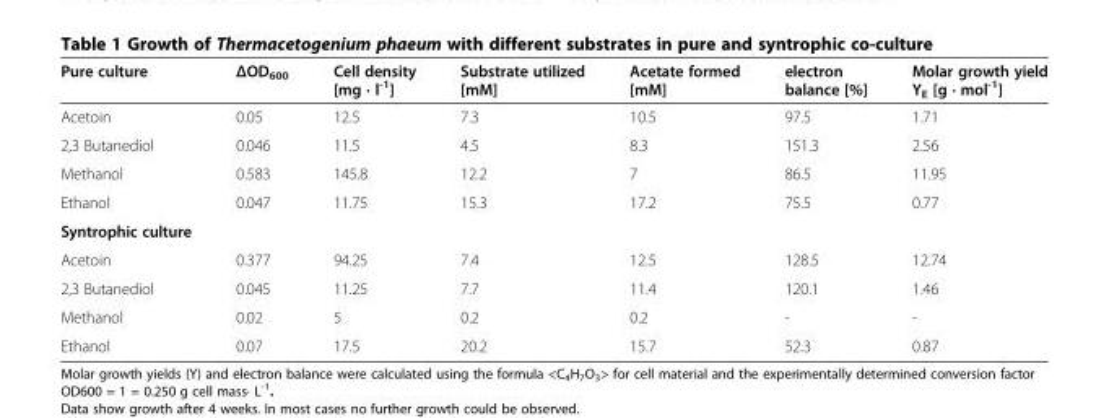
<table><thead><tr><td>Pure culture</td><td>ΔOD<sub>600</sub></td><td>Cell density [mg · l<sup>-1</sup>]</td><td>Substrate utilized [mM]</td><td>Acetate formed [mM]</td><td>electron balance [%]</td><td>Molar growth yield Y<sub>E</sub> [g · mol<sup>-1</sup>]</td></tr></thead><tbody><tr><td>Acetoin</td><td>0.05</td><td>12.5</td><td>7.3</td><td>10.5</td><td>97.5</td><td>1.71</td></tr><tr><td>2,3 Butanediol</td><td>0.046</td><td>11.5</td><td>4.5</td><td>8.3</td><td>151.3</td><td>2.56</td></tr><tr><td>Methanol</td><td>0.583</td><td>145.8</td><td>12.2</td><td>7</td><td>86.5</td><td>11.95</td></tr><tr><td>Ethanol</td><td>0.047</td><td>11.75</td><td>15.3</td><td>17.2</td><td>75.5</td><td>0.77</td></tr><tr><td colspan="7">Syntrophic culture</td></tr><tr><td>Acetoin</td><td>0.377</td><td>94.25</td><td>7.4</td><td>12.5</td><td>128.5</td><td>12.74</td></tr><tr><td>2,3 Butanediol</td><td>0.045</td><td>11.25</td><td>7.7</td><td>11.4</td><td>120.1</td><td>1.46</td></tr><tr><td>Methanol</td><td>0.02</td><td>5</td><td>0.2</td><td>0.2</td><td>-</td><td>-</td></tr><tr><td>Ethanol</td><td>0.07</td><td>17.5</td><td>20.2</td><td>15.7</td><td>52.3</td><td>0.87</td></tr></tbody></table>